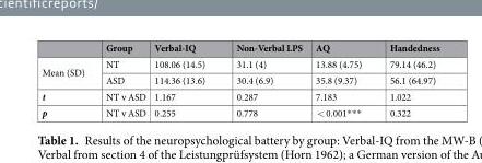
<table><thead><tr><td></td><td>Group</td><td>Verbal-IQ</td><td>Non-Verbal LPS</td><td>AQ</td><td>Handedness</td></tr></thead><tbody><tr><td rowspan="2">Mean (SD)</td><td>NT</td><td>108.06 (14.5)</td><td>31.1 (4)</td><td>13.88 (4.75)</td><td>79.14 (46.2)</td></tr><tr><td>ASD</td><td>114.36 (13.6)</td><td>30.4 (6.9)</td><td>35.8 (9.37)</td><td>56.1 (64.97)</td></tr><tr><td>t</td><td>NT v ASD</td><td>1.167</td><td>0.287</td><td>7.183</td><td>1.022</td></tr><tr><td>p</td><td>NT v ASD</td><td>0.255</td><td>0.778</td><td>&lt; 0.001***</td><td>0.322</td></tr></tbody></table>